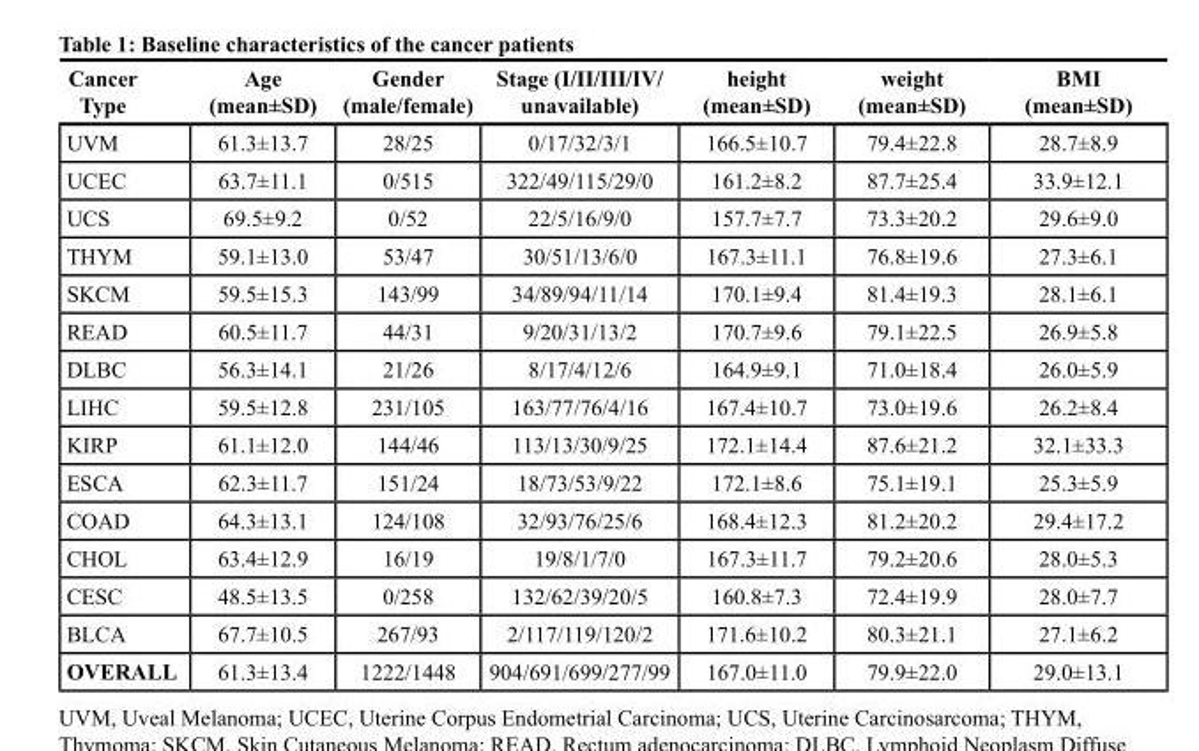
<table><thead><tr><td>Cancer Type</td><td>Age (mean±SD)</td><td>Gender (male/female)</td><td>Stage (I/II/III/IV/ unavailable)</td><td>height (mean±SD)</td><td>weight (mean±SD)</td><td>BMI (mean±SD)</td></tr></thead><tbody><tr><td>UVM</td><td>61.3±13.7</td><td>28/25</td><td>0/17/32/3/1</td><td>166.5±10.7</td><td>79.4±22.8</td><td>28.7±8.9</td></tr><tr><td>UCEC</td><td>63.7±11.1</td><td>0/515</td><td>322/49/115/29/0</td><td>161.2±8.2</td><td>87.7±25.4</td><td>33.9±12.1</td></tr><tr><td>UCS</td><td>69.5±9.2</td><td>0/52</td><td>22/5/16/9/0</td><td>157.7±7.7</td><td>73.3±20.2</td><td>29.6±9.0</td></tr><tr><td>THYM</td><td>59.1±13.0</td><td>53/47</td><td>30/51/13/6/0</td><td>167.3±11.1</td><td>76.8±19.6</td><td>27.3±6.1</td></tr><tr><td>SKCM</td><td>59.5±15.3</td><td>143/99</td><td>34/89/94/11/14</td><td>170.1±9.4</td><td>81.4±19.3</td><td>28.1±6.1</td></tr><tr><td>READ</td><td>60.5±11.7</td><td>44/31</td><td>9/20/31/13/2</td><td>170.7±9.6</td><td>79.1±22.5</td><td>26.9±5.8</td></tr><tr><td>DLBC</td><td>56.3±14.1</td><td>21/26</td><td>8/17/4/12/6</td><td>164.9±9.1</td><td>71.0±18.4</td><td>26.0±5.9</td></tr><tr><td>LIHC</td><td>59.5±12.8</td><td>231/105</td><td>163/77/76/4/16</td><td>167.4±10.7</td><td>73.0±19.6</td><td>26.2±8.4</td></tr><tr><td>KIRP</td><td>61.1±12.0</td><td>144/46</td><td>113/13/30/9/25</td><td>172.1±14.4</td><td>87.6±21.2</td><td>32.1±33.3</td></tr><tr><td>ESCA</td><td>62.3±11.7</td><td>151/24</td><td>18/73/53/9/22</td><td>172.1±8.6</td><td>75.1±19.1</td><td>25.3±5.9</td></tr><tr><td>COAD</td><td>64.3±13.1</td><td>124/108</td><td>32/93/76/25/6</td><td>168.4±12.3</td><td>81.2±20.2</td><td>29.4±17.2</td></tr><tr><td>CHOL</td><td>63.4±12.9</td><td>16/19</td><td>19/8/1/7/0</td><td>167.3±11.7</td><td>79.2±20.6</td><td>28.0±5.3</td></tr><tr><td>CESC</td><td>48.5±13.5</td><td>0/258</td><td>132/62/39/20/5</td><td>160.8±7.3</td><td>72.4±19.9</td><td>28.0±7.7</td></tr><tr><td>BLCA</td><td>67.7±10.5</td><td>267/93</td><td>2/117/119/120/2</td><td>171.6±10.2</td><td>80.3±21.1</td><td>27.1±6.2</td></tr><tr><td>OVERALL</td><td>61.3±13.4</td><td>1222/1448</td><td>904/691/699/277/99</td><td>167.0±11.0</td><td>79.9±22.0</td><td>29.0±13.1</td></tr></tbody></table>